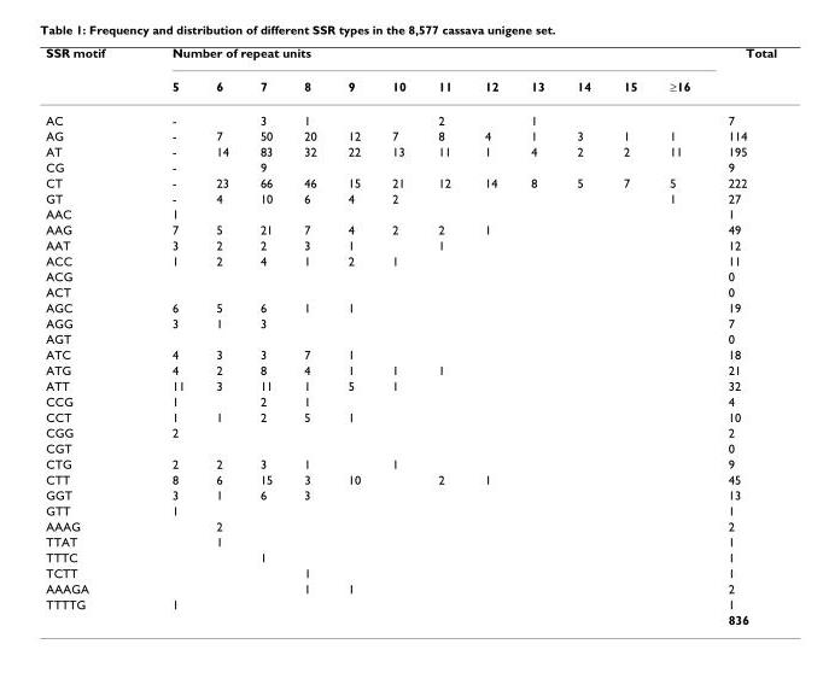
<table><tbody><tr><td rowspan="2">SSR motif</td><td colspan="12">Number of repeat units</td><td>Total</td></tr><tr><td>5</td><td>6</td><td>7</td><td>8</td><td>9</td><td>10</td><td>11</td><td>12</td><td>13</td><td>14</td><td>15</td><td>≥16</td><td></td></tr><tr><td>AC</td><td>-</td><td></td><td>3</td><td>1</td><td></td><td></td><td>2</td><td></td><td>1</td><td></td><td></td><td></td><td>7</td></tr><tr><td>AG</td><td>-</td><td>7</td><td>50</td><td>20</td><td>12</td><td>7</td><td>8</td><td>4</td><td>1</td><td>3</td><td>1</td><td>1</td><td>114</td></tr><tr><td>AT</td><td>-</td><td>14</td><td>83</td><td>32</td><td>22</td><td>13</td><td>11</td><td>1</td><td>4</td><td>2</td><td>2</td><td>11</td><td>195</td></tr><tr><td>CG</td><td>-</td><td></td><td>9</td><td></td><td></td><td></td><td></td><td></td><td></td><td></td><td></td><td></td><td>9</td></tr><tr><td>CT</td><td>-</td><td>23</td><td>66</td><td>46</td><td>15</td><td>21</td><td>12</td><td>14</td><td>8</td><td>5</td><td>7</td><td>5</td><td>222</td></tr><tr><td>GT</td><td>-</td><td>4</td><td>10</td><td>6</td><td>4</td><td>2</td><td></td><td></td><td></td><td></td><td></td><td>1</td><td>27</td></tr><tr><td>AAC</td><td>1</td><td></td><td></td><td></td><td></td><td></td><td></td><td></td><td></td><td></td><td></td><td></td><td>1</td></tr><tr><td>AAG</td><td>7</td><td>5</td><td>21</td><td>7</td><td>4</td><td>2</td><td>2</td><td>1</td><td></td><td></td><td></td><td></td><td>49</td></tr><tr><td>AAT</td><td>3</td><td>2</td><td>2</td><td>3</td><td>1</td><td></td><td>1</td><td></td><td></td><td></td><td></td><td></td><td>12</td></tr><tr><td>ACC</td><td>1</td><td>2</td><td>4</td><td>1</td><td>2</td><td>1</td><td></td><td></td><td></td><td></td><td></td><td></td><td>11</td></tr><tr><td>ACG</td><td></td><td></td><td></td><td></td><td></td><td></td><td></td><td></td><td></td><td></td><td></td><td></td><td>0</td></tr><tr><td>ACT</td><td></td><td></td><td></td><td></td><td></td><td></td><td></td><td></td><td></td><td></td><td></td><td></td><td>0</td></tr><tr><td>AGC</td><td>6</td><td>5</td><td>6</td><td>1</td><td>1</td><td></td><td></td><td></td><td></td><td></td><td></td><td></td><td>19</td></tr><tr><td>AGG</td><td>3</td><td>1</td><td>3</td><td></td><td></td><td></td><td></td><td></td><td></td><td></td><td></td><td></td><td>7</td></tr><tr><td>AGT</td><td></td><td></td><td></td><td></td><td></td><td></td><td></td><td></td><td></td><td></td><td></td><td></td><td>0</td></tr><tr><td>ATC</td><td>4</td><td>3</td><td>3</td><td>7</td><td>1</td><td></td><td></td><td></td><td></td><td></td><td></td><td></td><td>18</td></tr><tr><td>ATG</td><td>4</td><td>2</td><td>8</td><td>4</td><td>1</td><td>1</td><td>1</td><td></td><td></td><td></td><td></td><td></td><td>21</td></tr><tr><td>ATT</td><td>11</td><td>3</td><td>11</td><td>1</td><td>5</td><td>1</td><td></td><td></td><td></td><td></td><td></td><td></td><td>32</td></tr><tr><td>CCG</td><td>1</td><td></td><td>2</td><td>1</td><td></td><td></td><td></td><td></td><td></td><td></td><td></td><td></td><td>4</td></tr><tr><td>CCT</td><td>1</td><td>1</td><td>2</td><td>5</td><td>1</td><td></td><td></td><td></td><td></td><td></td><td></td><td></td><td>10</td></tr><tr><td>CGG</td><td>2</td><td></td><td></td><td></td><td></td><td></td><td></td><td></td><td></td><td></td><td></td><td></td><td>2</td></tr><tr><td>CGT</td><td></td><td></td><td></td><td></td><td></td><td></td><td></td><td></td><td></td><td></td><td></td><td></td><td>0</td></tr><tr><td>CTG</td><td>2</td><td>2</td><td>3</td><td>1</td><td></td><td>1</td><td></td><td></td><td></td><td></td><td></td><td></td><td>9</td></tr><tr><td>CTT</td><td>8</td><td>6</td><td>15</td><td>3</td><td>10</td><td></td><td>2</td><td>1</td><td></td><td></td><td></td><td></td><td>45</td></tr><tr><td>GGT</td><td>3</td><td>1</td><td>6</td><td>3</td><td></td><td></td><td></td><td></td><td></td><td></td><td></td><td></td><td>13</td></tr><tr><td>GTT</td><td>1</td><td></td><td></td><td></td><td></td><td></td><td></td><td></td><td></td><td></td><td></td><td></td><td>1</td></tr><tr><td>AAAG</td><td></td><td>2</td><td></td><td></td><td></td><td></td><td></td><td></td><td></td><td></td><td></td><td></td><td>2</td></tr><tr><td>TTAT</td><td></td><td>1</td><td></td><td></td><td></td><td></td><td></td><td></td><td></td><td></td><td></td><td></td><td>1</td></tr><tr><td>TTTC</td><td></td><td></td><td>1</td><td></td><td></td><td></td><td></td><td></td><td></td><td></td><td></td><td></td><td>1</td></tr><tr><td>TCTT</td><td></td><td></td><td></td><td>1</td><td></td><td></td><td></td><td></td><td></td><td></td><td></td><td></td><td>1</td></tr><tr><td>AAAGA</td><td></td><td></td><td></td><td>1</td><td>1</td><td></td><td></td><td></td><td></td><td></td><td></td><td></td><td>2</td></tr><tr><td rowspan="2">TTTTG</td><td>1</td><td></td><td></td><td></td><td></td><td></td><td></td><td></td><td></td><td></td><td></td><td></td><td>1</td></tr><tr><td></td><td></td><td></td><td></td><td></td><td></td><td></td><td></td><td></td><td></td><td></td><td></td><td>836</td></tr></tbody></table>